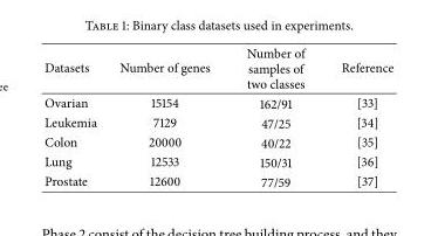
<table><thead><tr><td>Datasets</td><td>Number of genes</td><td>Number of samples of two classes</td><td>Reference</td></tr></thead><tbody><tr><td>Ovarian</td><td>15154</td><td>162/91</td><td>[33]</td></tr><tr><td>Leukemia</td><td>7129</td><td>47/25</td><td>[34]</td></tr><tr><td>Colon</td><td>20000</td><td>40/22</td><td>[35]</td></tr><tr><td>Lung</td><td>12533</td><td>150/31</td><td>[36]</td></tr><tr><td>Prostate</td><td>12600</td><td>77/59</td><td>[37]</td></tr></tbody></table>